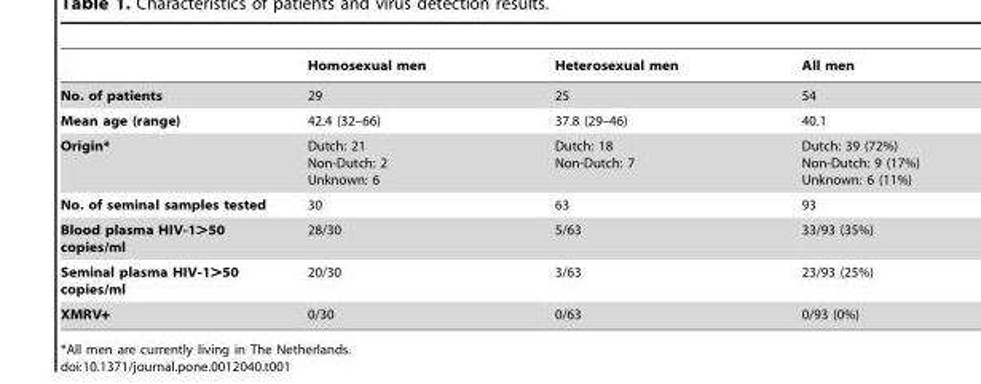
<table><thead><tr><td></td><td>Homosexual men</td><td>Heterosexual men</td><td>All men</td></tr></thead><tbody><tr><td>No. of patients</td><td>29</td><td>25</td><td>54</td></tr><tr><td>Mean age (range)</td><td>42.4 (32–66)</td><td>37.8 (29–46)</td><td>40.1</td></tr><tr><td>Origin*</td><td>Dutch: 21 Non-Dutch: 2 Unknown: 6</td><td>Dutch: 18 Non-Dutch: 7</td><td>Dutch: 39 (72%) Non-Dutch: 9 (17%) Unknown: 6 (11%)</td></tr><tr><td>No. of seminal samples tested</td><td>30</td><td>63</td><td>93</td></tr><tr><td>Blood plasma HIV-1&gt;50 copies/ml</td><td>28/30</td><td>5/63</td><td>33/93 (35%)</td></tr><tr><td>Seminal plasma HIV-1&gt;50 copies/ml</td><td>20/30</td><td>3/63</td><td>23/93 (25%)</td></tr><tr><td>XMRV+</td><td>0/30</td><td>0/63</td><td>0/93 (0%)</td></tr></tbody></table>